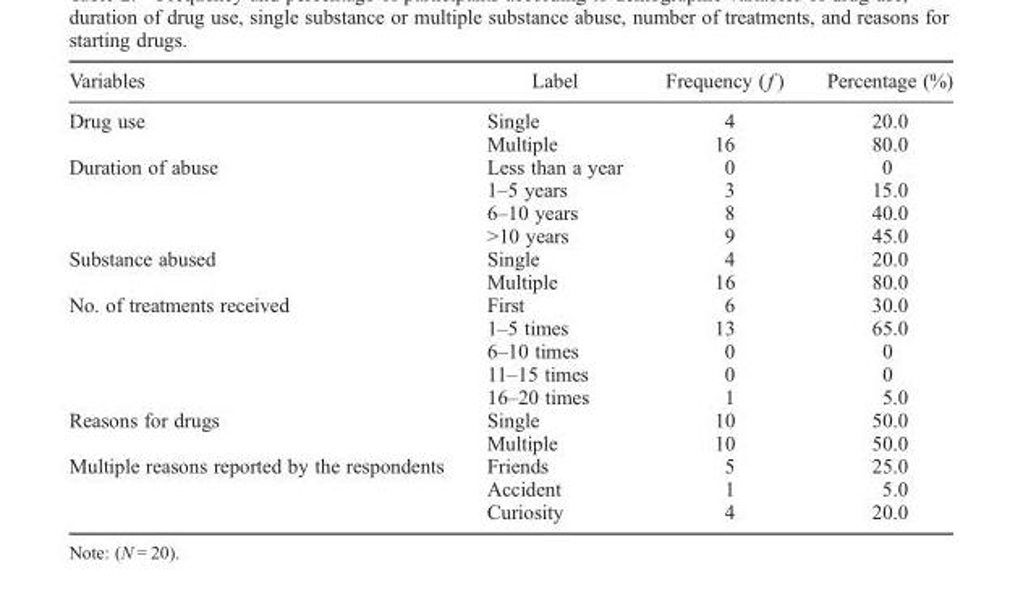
<table><thead><tr><td>Variables</td><td>Label</td><td>Frequency (f )</td><td>Percentage (%)</td></tr></thead><tbody><tr><td rowspan="2">Drug use</td><td>Single</td><td>4</td><td>20.0</td></tr><tr><td>Multiple</td><td>16</td><td>80.0</td></tr><tr><td rowspan="4">Duration of abuse</td><td>Less than a year</td><td>0</td><td>0</td></tr><tr><td>1–5 years</td><td>3</td><td>15.0</td></tr><tr><td>6–10 years</td><td>8</td><td>40.0</td></tr><tr><td>&gt;10 years</td><td>9</td><td>45.0</td></tr><tr><td rowspan="2">Substance abused</td><td>Single</td><td>4</td><td>20.0</td></tr><tr><td>Multiple</td><td>16</td><td>80.0</td></tr><tr><td rowspan="5">No. of treatments received</td><td>First</td><td>6</td><td>30.0</td></tr><tr><td>1–5 times</td><td>13</td><td>65.0</td></tr><tr><td>6–10 times</td><td>0</td><td>0</td></tr><tr><td>11–15 times</td><td>0</td><td>0</td></tr><tr><td>16–20 times</td><td>1</td><td>5.0</td></tr><tr><td rowspan="2">Reasons for drugs</td><td>Single</td><td>10</td><td>50.0</td></tr><tr><td>Multiple</td><td>10</td><td>50.0</td></tr><tr><td rowspan="3">Multiple reasons reported by the respondents</td><td>Friends</td><td>5</td><td>25.0</td></tr><tr><td>Accident</td><td>1</td><td>5.0</td></tr><tr><td>Curiosity</td><td>4</td><td>20.0</td></tr></tbody></table>